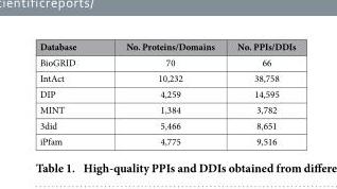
<table><thead><tr><td>Database</td><td>No. Proteins/Domains</td><td>No. PPIs/DDIs</td></tr></thead><tbody><tr><td>BioGRID</td><td>70</td><td>66</td></tr><tr><td>IntAct</td><td>10,232</td><td>38,758</td></tr><tr><td>DIP</td><td>4,259</td><td>14,595</td></tr><tr><td>MINT</td><td>1,384</td><td>3,782</td></tr><tr><td>3did</td><td>5,466</td><td>8,651</td></tr><tr><td>iPfam</td><td>4,775</td><td>9,516</td></tr></tbody></table>